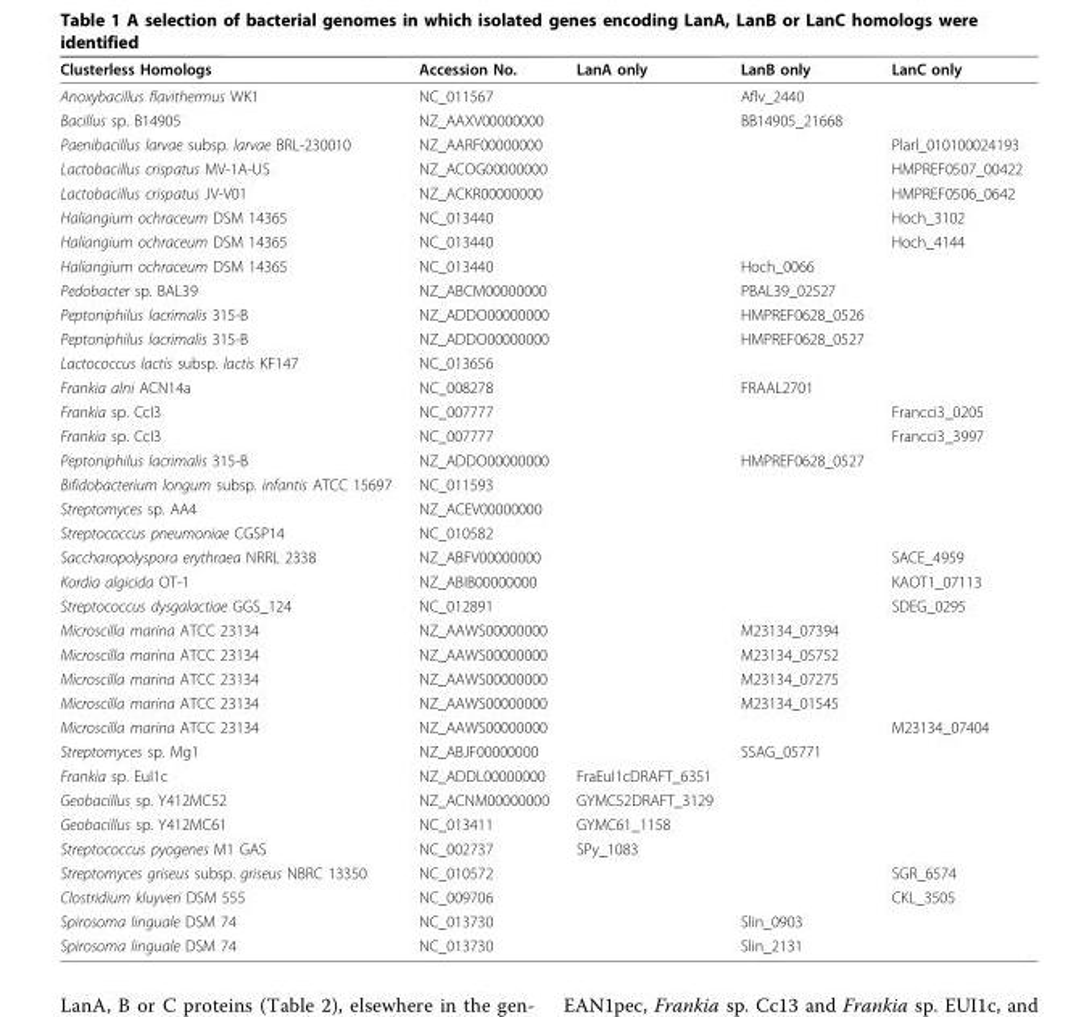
<table><thead><tr><td>Clusterless Homologs</td><td>Accession No.</td><td>LanA only</td><td>LanB only</td><td>LanC only</td></tr></thead><tbody><tr><td>Anoxybacillus flavithermus WK1</td><td>NC_011567</td><td></td><td>Aflv_2440</td><td></td></tr><tr><td>Bacillus sp. B14905</td><td>NZ_AAXV00000000</td><td></td><td>BB14905_21668</td><td></td></tr><tr><td>Paenibacillus larvae subsp. larvae BRL-230010</td><td>NZ_AARF00000000</td><td></td><td></td><td>Plarl_010100024193</td></tr><tr><td>Lactobacillus crispatus MV-1A-US</td><td>NZ_ACOG00000000</td><td></td><td></td><td>HMPREF0507_00422</td></tr><tr><td>Lactobacillus crispatus JV-V01</td><td>NZ_ACKR00000000</td><td></td><td></td><td>HMPREF0506_0642</td></tr><tr><td>Haliangium ochraceum DSM 14365</td><td>NC_013440</td><td></td><td></td><td>Hoch_3102</td></tr><tr><td>Haliangium ochraceum DSM 14365</td><td>NC_013440</td><td></td><td></td><td>Hoch_4144</td></tr><tr><td>Haliangium ochraceum DSM 14365</td><td>NC_013440</td><td></td><td>Hoch_0066</td><td></td></tr><tr><td>Pedobacter sp. BAL39</td><td>NZ_ABCM00000000</td><td></td><td>PBAL39_02527</td><td></td></tr><tr><td>Peptoniphilus lacrimalis 315-B</td><td>NZ_ADDO00000000</td><td></td><td>HMPREF0628_0526</td><td></td></tr><tr><td>Peptoniphilus lacrimalis 315-B</td><td>NZ_ADDO00000000</td><td></td><td>HMPREF0628_0527</td><td></td></tr><tr><td>Lactococcus lactis subsp. lactis KF147</td><td>NC_013656</td><td></td><td></td><td></td></tr><tr><td>Frankia alni ACN14a</td><td>NC_008278</td><td></td><td>FRAAL2701</td><td></td></tr><tr><td>Frankia sp. CcI3</td><td>NC_007777</td><td></td><td></td><td>Francci3_0205</td></tr><tr><td>Frankia sp. CcI3</td><td>NC_007777</td><td></td><td></td><td>Francci3_3997</td></tr><tr><td>Peptoniphilus lacrimalis 315-B</td><td>NZ_ADDO00000000</td><td></td><td>HMPREF0628_0527</td><td></td></tr><tr><td>Bifidobacterium longum subsp. infantis ATCC 15697</td><td>NC_011593</td><td></td><td></td><td></td></tr><tr><td>Streptomyces sp. AA4</td><td>NZ_ACEV00000000</td><td></td><td></td><td></td></tr><tr><td>Streptococcus pneumoniae CGSP14</td><td>NC_010582</td><td></td><td></td><td></td></tr><tr><td>Saccharopolyspora erythraea NRRL 2338</td><td>NZ_ABFV00000000</td><td></td><td></td><td>SACE_4959</td></tr><tr><td>Kordia algicida OT-1</td><td>NZ_ABIB00000000</td><td></td><td></td><td>KAOT1_07113</td></tr><tr><td>Streptococcus dysgalactiae GGS_124</td><td>NC_012891</td><td></td><td></td><td>SDEG_0295</td></tr><tr><td>Microscilla marina ATCC 23134</td><td>NZ_AAWS00000000</td><td></td><td>M23134_07394</td><td></td></tr><tr><td>Microscilla marina ATCC 23134</td><td>NZ_AAWS00000000</td><td></td><td>M23134_05752</td><td></td></tr><tr><td>Microscilla marina ATCC 23134</td><td>NZ_AAWS00000000</td><td></td><td>M23134_07275</td><td></td></tr><tr><td>Microscilla marina ATCC 23134</td><td>NZ_AAWS00000000</td><td></td><td>M23134_01545</td><td></td></tr><tr><td>Microscilla marina ATCC 23134</td><td>NZ_AAWS00000000</td><td></td><td></td><td>M23134_07404</td></tr><tr><td>Streptomyces sp. Mg1</td><td>NZ_ABJF00000000</td><td></td><td>SSAG_05771</td><td></td></tr><tr><td>Frankia sp. EuI1c</td><td>NZ_ADDL00000000</td><td>FraEuI1cDRAFT_6351</td><td></td><td></td></tr><tr><td>Geobacillus sp. Y412MC52</td><td>NZ_ACNM00000000</td><td>GYMC52DRAFT_3129</td><td></td><td></td></tr><tr><td>Geobacillus sp. Y412MC61</td><td>NC_013411</td><td>GYMC61_1158</td><td></td><td></td></tr><tr><td>Streptococcus pyogenes M1 GAS</td><td>NC_002737</td><td>SPy_1083</td><td></td><td></td></tr><tr><td>Streptomyces griseus subsp. griseus NBRC 13350</td><td>NC_010572</td><td></td><td></td><td>SGR_6574</td></tr><tr><td>Clostridium kluyveri DSM 555</td><td>NC_009706</td><td></td><td></td><td>CKL_3505</td></tr><tr><td>Spirosoma linguale DSM 74</td><td>NC_013730</td><td></td><td>Slin_0903</td><td></td></tr><tr><td>Spirosoma linguale DSM 74</td><td>NC_013730</td><td></td><td>Slin_2131</td><td></td></tr></tbody></table>